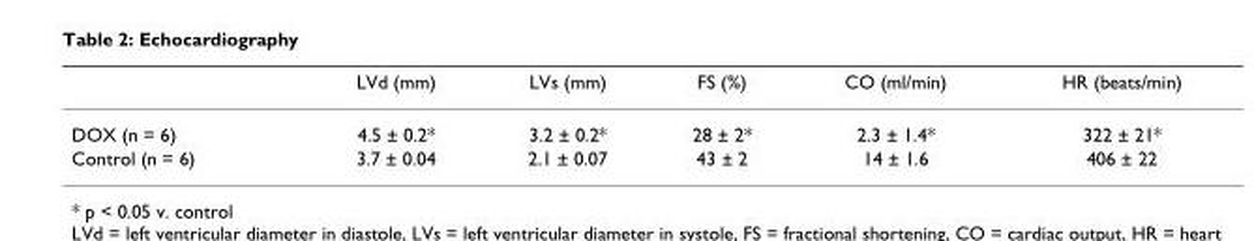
<table><thead><tr><td></td><td>LVd (mm)</td><td>LVs (mm)</td><td>FS (%)</td><td>CO (ml/min)</td><td>HR (beats/min)</td></tr></thead><tbody><tr><td>DOX (n = 6)</td><td>4.5 ± 0.2*</td><td>3.2 ± 0.2*</td><td>28 ± 2*</td><td>2.3 ± 1.4*</td><td>322 ± 21*</td></tr><tr><td>Control (n = 6)</td><td>3.7 ± 0.04</td><td>2.1 ± 0.07</td><td>43 ± 2</td><td>14 ± 1.6</td><td>406 ± 22</td></tr></tbody></table>